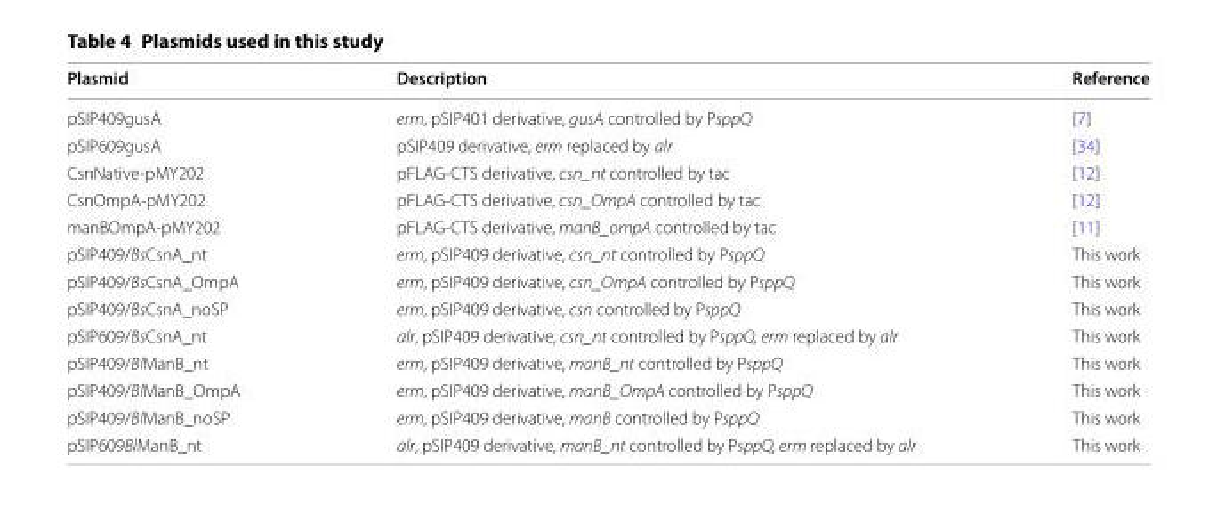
<table><thead><tr><td>Plasmid</td><td>Description</td><td>Reference</td></tr></thead><tbody><tr><td>pSIP409gusA</td><td>erm, pSIP401 derivative, gusA controlled by PsppQ</td><td>[7]</td></tr><tr><td>pSIP609gusA</td><td>pSIP409 derivative, erm replaced by alr</td><td>[34]</td></tr><tr><td>CsnNative‑pMY202</td><td>pFLAG‑CTS derivative, csn_nt controlled by tac</td><td>[12]</td></tr><tr><td>CsnOmpA‑pMY202</td><td>pFLAG‑CTS derivative, csn_OmpA controlled by tac</td><td>[12]</td></tr><tr><td>manBOmpA‑pMY202</td><td>pFLAG‑CTS derivative, manB_ompA controlled by tac</td><td>[11]</td></tr><tr><td>pSIP409/BsCsnA_nt</td><td>erm, pSIP409 derivative, csn_nt controlled by PsppQ</td><td>This work</td></tr><tr><td>pSIP409/BsCsnA_OmpA</td><td>erm, pSIP409 derivative, csn_OmpA controlled by PsppQ</td><td>This work</td></tr><tr><td>pSIP409/BsCsnA_noSP</td><td>erm, pSIP409 derivative, csn controlled by PsppQ</td><td>This work</td></tr><tr><td>pSIP609/BsCsnA_nt</td><td>alr, pSIP409 derivative, csn_nt controlled by PsppQ, erm replaced by alr</td><td>This work</td></tr><tr><td>pSIP409/BlManB_nt</td><td>erm, pSIP409 derivative, manB_nt controlled by PsppQ</td><td>This work</td></tr><tr><td>pSIP409/BlManB_OmpA</td><td>erm, pSIP409 derivative, manB_OmpA controlled by PsppQ</td><td>This work</td></tr><tr><td>pSIP409/BlManB_noSP</td><td>erm, pSIP409 derivative, manB controlled by PsppQ</td><td>This work</td></tr><tr><td>pSIP609BlManB_nt</td><td>alr, pSIP409 derivative, manB_nt controlled by PsppQ, erm replaced by alr</td><td>This work</td></tr></tbody></table>